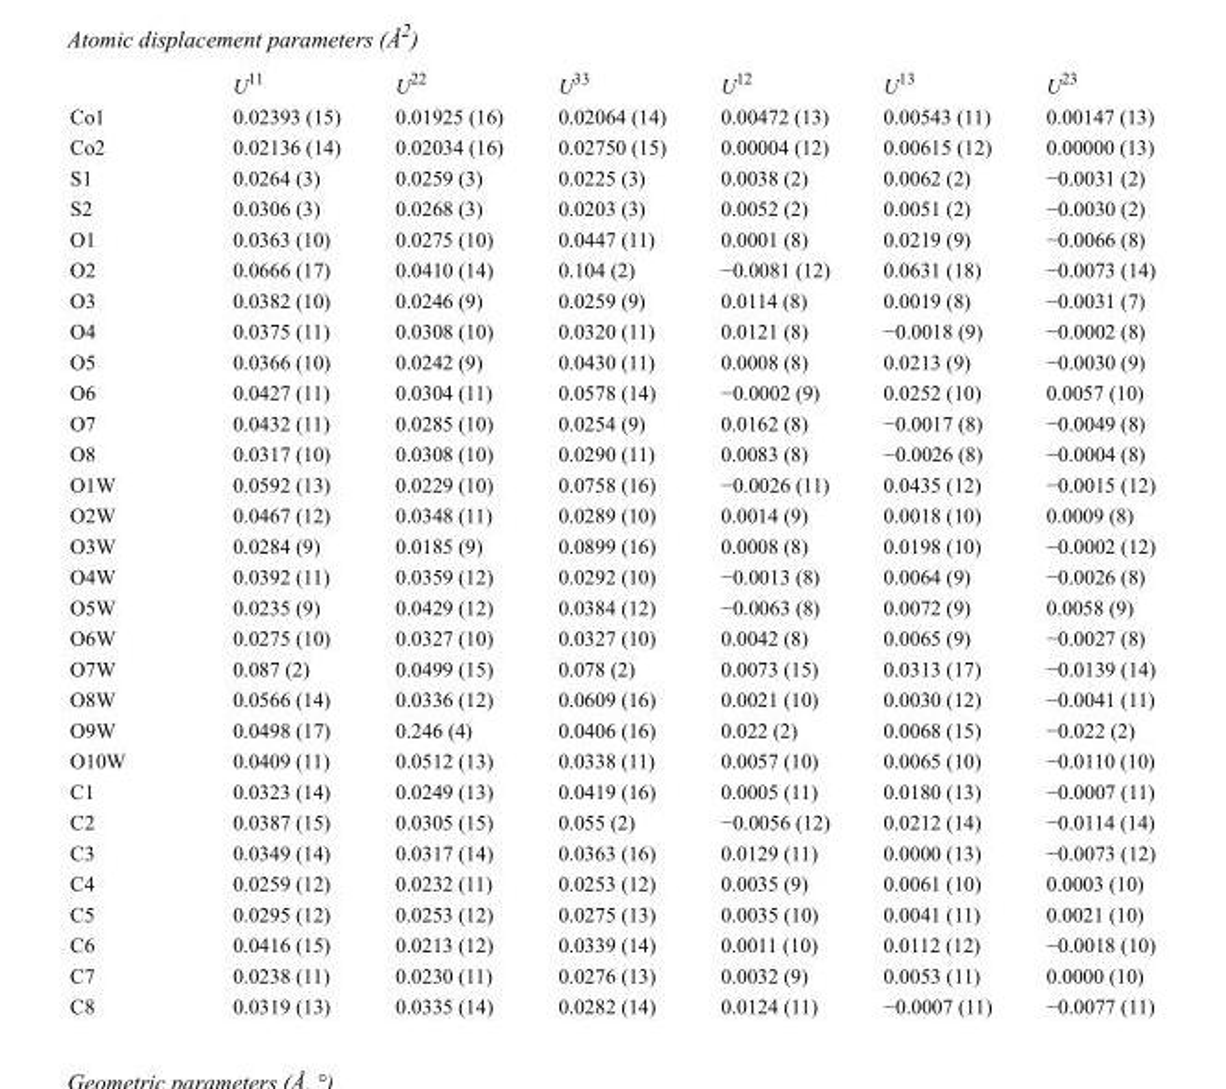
<table><thead><tr><td></td><td>U<sup>11</sup></td><td>U<sup>22</sup></td><td>U<sup>33</sup></td><td>U<sup>12</sup></td><td>U<sup>13</sup></td><td>U<sup>23</sup></td></tr></thead><tbody><tr><td>Co1</td><td>0.02393 (15)</td><td>0.01925 (16)</td><td>0.02064 (14)</td><td>0.00472 (13)</td><td>0.00543 (11)</td><td>0.00147 (13)</td></tr><tr><td>Co2</td><td>0.02136 (14)</td><td>0.02034 (16)</td><td>0.02750 (15)</td><td>0.00004 (12)</td><td>0.00615 (12)</td><td>0.00000 (13)</td></tr><tr><td>S1</td><td>0.0264 (3)</td><td>0.0259 (3)</td><td>0.0225 (3)</td><td>0.0038 (2)</td><td>0.0062 (2)</td><td>−0.0031 (2)</td></tr><tr><td>S2</td><td>0.0306 (3)</td><td>0.0268 (3)</td><td>0.0203 (3)</td><td>0.0052 (2)</td><td>0.0051 (2)</td><td>−0.0030 (2)</td></tr><tr><td>O1</td><td>0.0363 (10)</td><td>0.0275 (10)</td><td>0.0447 (11)</td><td>0.0001 (8)</td><td>0.0219 (9)</td><td>−0.0066 (8)</td></tr><tr><td>O2</td><td>0.0666 (17)</td><td>0.0410 (14)</td><td>0.104 (2)</td><td>−0.0081 (12)</td><td>0.0631 (18)</td><td>−0.0073 (14)</td></tr><tr><td>O3</td><td>0.0382 (10)</td><td>0.0246 (9)</td><td>0.0259 (9)</td><td>0.0114 (8)</td><td>0.0019 (8)</td><td>−0.0031 (7)</td></tr><tr><td>O4</td><td>0.0375 (11)</td><td>0.0308 (10)</td><td>0.0320 (11)</td><td>0.0121 (8)</td><td>−0.0018 (9)</td><td>−0.0002 (8)</td></tr><tr><td>O5</td><td>0.0366 (10)</td><td>0.0242 (9)</td><td>0.0430 (11)</td><td>0.0008 (8)</td><td>0.0213 (9)</td><td>−0.0030 (9)</td></tr><tr><td>O6</td><td>0.0427 (11)</td><td>0.0304 (11)</td><td>0.0578 (14)</td><td>−0.0002 (9)</td><td>0.0252 (10)</td><td>0.0057 (10)</td></tr><tr><td>O7</td><td>0.0432 (11)</td><td>0.0285 (10)</td><td>0.0254 (9)</td><td>0.0162 (8)</td><td>−0.0017 (8)</td><td>−0.0049 (8)</td></tr><tr><td>O8</td><td>0.0317 (10)</td><td>0.0308 (10)</td><td>0.0290 (11)</td><td>0.0083 (8)</td><td>−0.0026 (8)</td><td>−0.0004 (8)</td></tr><tr><td>O1W</td><td>0.0592 (13)</td><td>0.0229 (10)</td><td>0.0758 (16)</td><td>−0.0026 (11)</td><td>0.0435 (12)</td><td>−0.0015 (12)</td></tr><tr><td>O2W</td><td>0.0467 (12)</td><td>0.0348 (11)</td><td>0.0289 (10)</td><td>0.0014 (9)</td><td>0.0018 (10)</td><td>0.0009 (8)</td></tr><tr><td>O3W</td><td>0.0284 (9)</td><td>0.0185 (9)</td><td>0.0899 (16)</td><td>0.0008 (8)</td><td>0.0198 (10)</td><td>−0.0002 (12)</td></tr><tr><td>O4W</td><td>0.0392 (11)</td><td>0.0359 (12)</td><td>0.0292 (10)</td><td>−0.0013 (8)</td><td>0.0064 (9)</td><td>−0.0026 (8)</td></tr><tr><td>O5W</td><td>0.0235 (9)</td><td>0.0429 (12)</td><td>0.0384 (12)</td><td>−0.0063 (8)</td><td>0.0072 (9)</td><td>0.0058 (9)</td></tr><tr><td>O6W</td><td>0.0275 (10)</td><td>0.0327 (10)</td><td>0.0327 (10)</td><td>0.0042 (8)</td><td>0.0065 (9)</td><td>−0.0027 (8)</td></tr><tr><td>O7W</td><td>0.087 (2)</td><td>0.0499 (15)</td><td>0.078 (2)</td><td>0.0073 (15)</td><td>0.0313 (17)</td><td>−0.0139 (14)</td></tr><tr><td>O8W</td><td>0.0566 (14)</td><td>0.0336 (12)</td><td>0.0609 (16)</td><td>0.0021 (10)</td><td>0.0030 (12)</td><td>−0.0041 (11)</td></tr><tr><td>O9W</td><td>0.0498 (17)</td><td>0.246 (4)</td><td>0.0406 (16)</td><td>0.022 (2)</td><td>0.0068 (15)</td><td>−0.022 (2)</td></tr><tr><td>O10W</td><td>0.0409 (11)</td><td>0.0512 (13)</td><td>0.0338 (11)</td><td>0.0057 (10)</td><td>0.0065 (10)</td><td>−0.0110 (10)</td></tr><tr><td>C1</td><td>0.0323 (14)</td><td>0.0249 (13)</td><td>0.0419 (16)</td><td>0.0005 (11)</td><td>0.0180 (13)</td><td>−0.0007 (11)</td></tr><tr><td>C2</td><td>0.0387 (15)</td><td>0.0305 (15)</td><td>0.055 (2)</td><td>−0.0056 (12)</td><td>0.0212 (14)</td><td>−0.0114 (14)</td></tr><tr><td>C3</td><td>0.0349 (14)</td><td>0.0317 (14)</td><td>0.0363 (16)</td><td>0.0129 (11)</td><td>0.0000 (13)</td><td>−0.0073 (12)</td></tr><tr><td>C4</td><td>0.0259 (12)</td><td>0.0232 (11)</td><td>0.0253 (12)</td><td>0.0035 (9)</td><td>0.0061 (10)</td><td>0.0003 (10)</td></tr><tr><td>C5</td><td>0.0295 (12)</td><td>0.0253 (12)</td><td>0.0275 (13)</td><td>0.0035 (10)</td><td>0.0041 (11)</td><td>0.0021 (10)</td></tr><tr><td>C6</td><td>0.0416 (15)</td><td>0.0213 (12)</td><td>0.0339 (14)</td><td>0.0011 (10)</td><td>0.0112 (12)</td><td>−0.0018 (10)</td></tr><tr><td>C7</td><td>0.0238 (11)</td><td>0.0230 (11)</td><td>0.0276 (13)</td><td>0.0032 (9)</td><td>0.0053 (11)</td><td>0.0000 (10)</td></tr><tr><td>C8</td><td>0.0319 (13)</td><td>0.0335 (14)</td><td>0.0282 (14)</td><td>0.0124 (11)</td><td>−0.0007 (11)</td><td>−0.0077 (11)</td></tr></tbody></table>